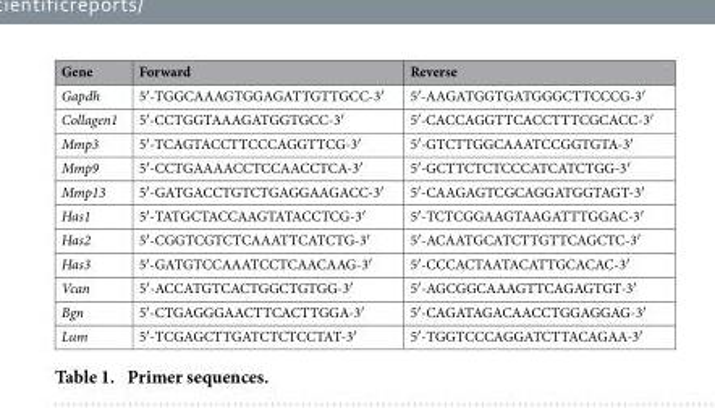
<table><thead><tr><td>Gene</td><td>Forward</td><td>Reverse</td></tr></thead><tbody><tr><td>Gapdh</td><td>5′ -TGGCAAAGTGGAGATTGTTGCC-3′</td><td>5′ -AAGATGGTGATGGGCTTCCCG-3′</td></tr><tr><td>Collagen1</td><td>5′ -CCTGGTAAAGATGGTGCC-3′</td><td>5′ -CACCAGGTTCACCTTTCGCACC-3′</td></tr><tr><td>Mmp3</td><td>5′ -TCAGTACCTTCCCAGGTTCG-3′</td><td>5′ -GTCTTGGCAAATCCGGTGTA-3′</td></tr><tr><td>Mmp9</td><td>5′ -CCTGAAAACCTCCAACCTCA-3′</td><td>5′ -GCTTCTCTCCCATCATCTGG-3′</td></tr><tr><td>Mmp13</td><td>5′ -GATGACCTGTCTGAGGAAGACC-3′</td><td>5′ -CAAGAGTCGCAGGATGGTAGT-3′</td></tr><tr><td>Has1</td><td>5′ -TATGCTACCAAGTATACCTCG-3′</td><td>5′ -TCTCGGAAGTAAGATTTGGAC-3′</td></tr><tr><td>Has2</td><td>5′ -CGGTCGTCTCAAATTCATCTG-3′</td><td>5′ -ACAATGCATCTTGTTCAGCTC-3′</td></tr><tr><td>Has3</td><td>5′ -GATGTCCAAATCCTCAACAAG-3′</td><td>5′ -CCCACTAATACATTGCACAC-3′</td></tr><tr><td>Vcan</td><td>5′ -ACCATGTCACTGGCTGTGG-3′</td><td>5′ -AGCGGCAAAGTTCAGAGTGT-3′</td></tr><tr><td>Bgn</td><td>5′ -CTGAGGGAACTTCACTTGGA-3′</td><td>5′ -CAGATAGACAACCTGGAGGAG-3′</td></tr><tr><td>Lum</td><td>5′ -TCGAGCTTGATCTCTCCTAT-3′</td><td>5′ -TGGTCCCAGGATCTTACAGAA-3′</td></tr></tbody></table>